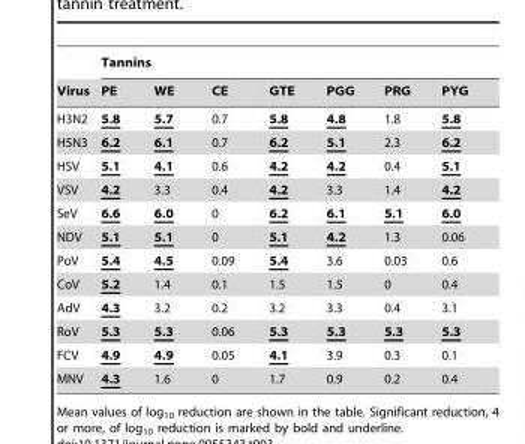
<table><thead><tr><td rowspan="2">Virus</td><td colspan="7">Tannins</td></tr><tr><td>PE</td><td>WE</td><td>CE</td><td>GTE</td><td>PGG</td><td>PRG</td><td>PYG</td></tr></thead><tbody><tr><td>H3N2</td><td>5.8</td><td>5.7</td><td>0.7</td><td>5.8</td><td>4.8</td><td>1.8</td><td>5.8</td></tr><tr><td>H5N3</td><td>6.2</td><td>6.1</td><td>0.7</td><td>6.2</td><td>5.1</td><td>2.3</td><td>6.2</td></tr><tr><td>HSV</td><td>5.1</td><td>4.1</td><td>0.6</td><td>4.2</td><td>4.2</td><td>0.4</td><td>5.1</td></tr><tr><td>VSV</td><td>4.2</td><td>3.3</td><td>0.4</td><td>4.2</td><td>3.3</td><td>1.4</td><td>4.2</td></tr><tr><td>SeV</td><td>6.6</td><td>6.0</td><td>0</td><td>6.2</td><td>6.1</td><td>5.1</td><td>6.0</td></tr><tr><td>NDV</td><td>5.1</td><td>5.1</td><td>0</td><td>5.1</td><td>4.2</td><td>1.3</td><td>0.06</td></tr><tr><td>PoV</td><td>5.4</td><td>4.5</td><td>0.09</td><td>5.4</td><td>3.6</td><td>0.03</td><td>0.6</td></tr><tr><td>CoV</td><td>5.2</td><td>1.4</td><td>0.1</td><td>1.5</td><td>1.5</td><td>0</td><td>0.4</td></tr><tr><td>AdV</td><td>4.3</td><td>3.2</td><td>0.2</td><td>3.2</td><td>3.3</td><td>0.4</td><td>3.1</td></tr><tr><td>RoV</td><td>5.3</td><td>5.3</td><td>0.06</td><td>5.3</td><td>5.3</td><td>5.3</td><td>5.3</td></tr><tr><td>FCV</td><td>4.9</td><td>4.9</td><td>0.05</td><td>4.1</td><td>3.9</td><td>0.3</td><td>0.1</td></tr><tr><td>MNV</td><td>4.3</td><td>1.6</td><td>0</td><td>1.7</td><td>0.9</td><td>0.2</td><td>0.4</td></tr></tbody></table>